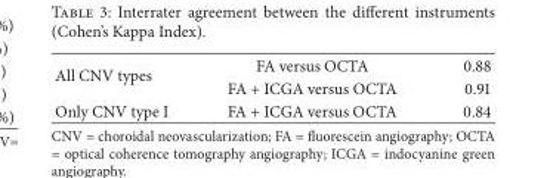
<table><tbody><tr><td rowspan="2">All CNV types</td><td>FA versus OCTA</td><td>0.88</td></tr><tr><td>FA + ICGA versus OCTA</td><td>0.91</td></tr><tr><td>Only CNV type I</td><td>FA + ICGA versus OCTA</td><td>0.84</td></tr></tbody></table>